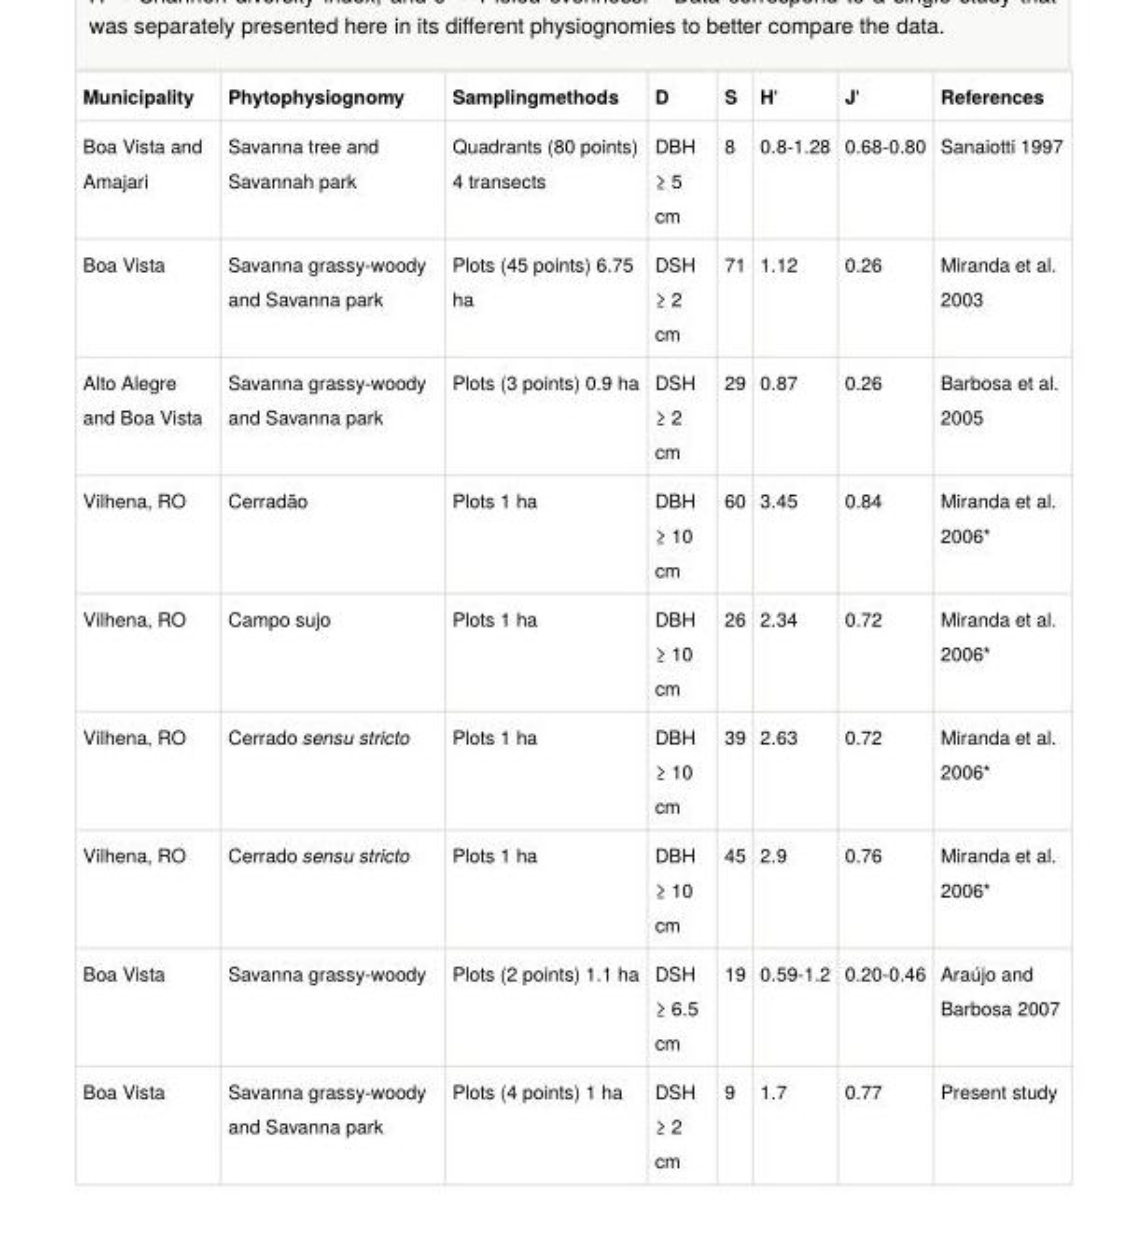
<table><tbody><tr><td>Municipality</td><td>Phytophysiognomy</td><td>Samplingmethods</td><td>D</td><td>S</td><td>H&#x27;</td><td>J&#x27;</td><td>References</td></tr><tr><td>Boa Vista and Amajari</td><td>Savanna tree and Savannah park</td><td>Quadrants (80 points) 4 transects</td><td>DBH ≥ 5 cm</td><td>8</td><td>0.8-1.28</td><td>0.68-0.80</td><td>Sanaiotti 1997</td></tr><tr><td>Boa Vista</td><td>Savanna grassy-woody and Savanna park</td><td>Plots (45 points) 6.75 ha</td><td>DSH ≥ 2 cm</td><td>71</td><td>1.12</td><td>0.26</td><td>Miranda et al. 2003</td></tr><tr><td>Alto Alegre and Boa Vista</td><td>Savanna grassy-woody and Savanna park</td><td>Plots (3 points) 0.9 ha</td><td>DSH ≥ 2 cm</td><td>29</td><td>0.87</td><td>0.26</td><td>Barbosa et al. 2005</td></tr><tr><td>Vilhena, RO</td><td>Cerradão</td><td>Plots 1 ha</td><td>DBH ≥ 10 cm</td><td>60</td><td>3.45</td><td>0.84</td><td>Miranda et al. 2006*</td></tr><tr><td>Vilhena, RO</td><td>Campo sujo</td><td>Plots 1 ha</td><td>DBH ≥ 10 cm</td><td>26</td><td>2.34</td><td>0.72</td><td>Miranda et al. 2006*</td></tr><tr><td>Vilhena, RO</td><td>Cerrado sensu stricto</td><td>Plots 1 ha</td><td>DBH ≥ 10 cm</td><td>39</td><td>2.63</td><td>0.72</td><td>Miranda et al. 2006*</td></tr><tr><td>Vilhena, RO</td><td>Cerrado sensu stricto</td><td>Plots 1 ha</td><td>DBH ≥ 10 cm</td><td>45</td><td>2.9</td><td>0.76</td><td>Miranda et al. 2006*</td></tr><tr><td>Boa Vista</td><td>Savanna grassy-woody</td><td>Plots (2 points) 1.1 ha</td><td>DSH ≥ 6.5 cm</td><td>19</td><td>0.59-1.2</td><td>0.20-0.46</td><td>Araújo and Barbosa 2007</td></tr><tr><td>Boa Vista</td><td>Savanna grassy-woody and Savanna park</td><td>Plots (4 points) 1 ha</td><td>DSH ≥ 2 cm</td><td>9</td><td>1.7</td><td>0.77</td><td>Present study</td></tr></tbody></table>